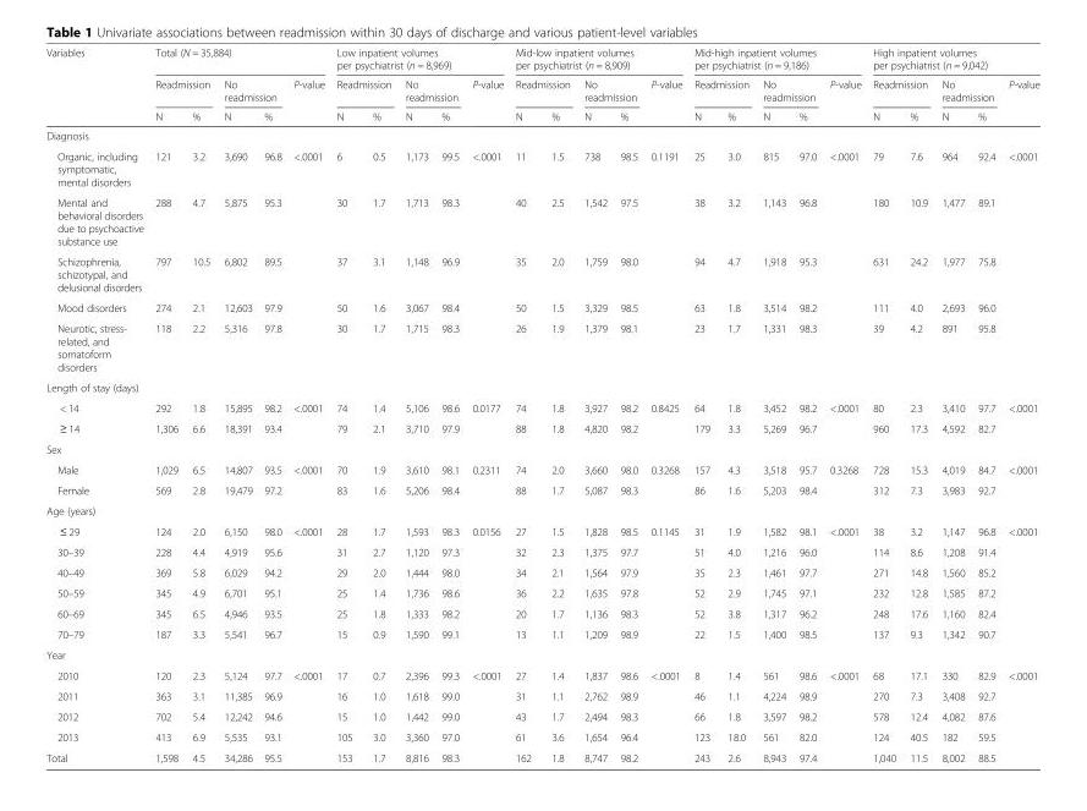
<table><thead><tr><td rowspan="3">Variables</td><td colspan="5">Total (N = 35,884)</td><td colspan="5">Low inpatient volumes per psychiatrist (n = 8,969)</td><td colspan="5">Mid-low inpatient volumes per psychiatrist (n = 8,909)</td><td colspan="5">Mid-high inpatient volumes per psychiatrist (n = 9,186)</td><td colspan="5">High inpatient volumes per psychiatrist (n = 9,042)</td></tr><tr><td colspan="2">Readmission</td><td colspan="2">No readmission</td><td rowspan="2">P-value</td><td colspan="2">Readmission</td><td colspan="2">No readmission</td><td rowspan="2">P-value</td><td colspan="2">Readmission</td><td colspan="2">No readmission</td><td rowspan="2">P-value</td><td colspan="2">Readmission</td><td colspan="2">No readmission</td><td rowspan="2">P-value</td><td colspan="2">Readmission</td><td colspan="2">No readmission</td><td rowspan="2">P-value</td></tr><tr><td>N</td><td>%</td><td>N</td><td>%</td><td>N</td><td>%</td><td>N</td><td>%</td><td>N</td><td>%</td><td>N</td><td>%</td><td>N</td><td>%</td><td>N</td><td>%</td><td>N</td><td>%</td><td>N</td><td>%</td></tr></thead><tbody><tr><td colspan="26">Diagnosis</td></tr><tr><td>Organic, including symptomatic, mental disorders</td><td>121</td><td>3.2</td><td>3,690</td><td>96.8</td><td>&lt;.0001</td><td>6</td><td>0.5</td><td>1,173</td><td>99.5</td><td>&lt;.0001</td><td>11</td><td>1.5</td><td>738</td><td>98.5</td><td>0.1191</td><td>25</td><td>3.0</td><td>815</td><td>97.0</td><td>&lt;.0001</td><td>79</td><td>7.6</td><td>964</td><td>92.4</td><td>&lt;.0001</td></tr><tr><td>Mental and behavioral disorders due to psychoactive substance use</td><td>288</td><td>4.7</td><td>5,875</td><td>95.3</td><td></td><td>30</td><td>1.7</td><td>1,713</td><td>98.3</td><td></td><td>40</td><td>2.5</td><td>1,542</td><td>97.5</td><td></td><td>38</td><td>3.2</td><td>1,143</td><td>96.8</td><td></td><td>180</td><td>10.9</td><td>1,477</td><td>89.1</td><td></td></tr><tr><td>Schizophrenia, schizotypal, and delusional disorders</td><td>797</td><td>10.5</td><td>6,802</td><td>89.5</td><td></td><td>37</td><td>3.1</td><td>1,148</td><td>96.9</td><td></td><td>35</td><td>2.0</td><td>1,759</td><td>98.0</td><td></td><td>94</td><td>4.7</td><td>1,918</td><td>95.3</td><td></td><td>631</td><td>24.2</td><td>1,977</td><td>75.8</td><td></td></tr><tr><td>Mood disorders</td><td>274</td><td>2.1</td><td>12,603</td><td>97.9</td><td></td><td>50</td><td>1.6</td><td>3,067</td><td>98.4</td><td></td><td>50</td><td>1.5</td><td>3,329</td><td>98.5</td><td></td><td>63</td><td>1.8</td><td>3,514</td><td>98.2</td><td></td><td>111</td><td>4.0</td><td>2,693</td><td>96.0</td><td></td></tr><tr><td>Neurotic, stress- related, and somatoform disorders</td><td>118</td><td>2.2</td><td>5,316</td><td>97.8</td><td></td><td>30</td><td>1.7</td><td>1,715</td><td>98.3</td><td></td><td>26</td><td>1.9</td><td>1,379</td><td>98.1</td><td></td><td>23</td><td>1.7</td><td>1,331</td><td>98.3</td><td></td><td>39</td><td>4.2</td><td>891</td><td>95.8</td><td></td></tr><tr><td colspan="26">Length of stay (days)</td></tr><tr><td>&lt; 14</td><td>292</td><td>1.8</td><td>15,895</td><td>98.2</td><td>&lt;.0001</td><td>74</td><td>1.4</td><td>5,106</td><td>98.6</td><td>0.0177</td><td>74</td><td>1.8</td><td>3,927</td><td>98.2</td><td>0.8425</td><td>64</td><td>1.8</td><td>3,452</td><td>98.2</td><td>&lt;.0001</td><td>80</td><td>2.3</td><td>3,410</td><td>97.7</td><td>&lt;.0001</td></tr><tr><td>≥ 14</td><td>1,306</td><td>6.6</td><td>18,391</td><td>93.4</td><td></td><td>79</td><td>2.1</td><td>3,710</td><td>97.9</td><td></td><td>88</td><td>1.8</td><td>4,820</td><td>98.2</td><td></td><td>179</td><td>3.3</td><td>5,269</td><td>96.7</td><td></td><td>960</td><td>17.3</td><td>4,592</td><td>82.7</td><td></td></tr><tr><td colspan="26">Sex</td></tr><tr><td>Male</td><td>1,029</td><td>6.5</td><td>14,807</td><td>93.5</td><td>&lt;.0001</td><td>70</td><td>1.9</td><td>3,610</td><td>98.1</td><td>0.2311</td><td>74</td><td>2.0</td><td>3,660</td><td>98.0</td><td>0.3268</td><td>157</td><td>4.3</td><td>3,518</td><td>95.7</td><td>0.3268</td><td>728</td><td>15.3</td><td>4,019</td><td>84.7</td><td>&lt;.0001</td></tr><tr><td>Female</td><td>569</td><td>2.8</td><td>19,479</td><td>97.2</td><td></td><td>83</td><td>1.6</td><td>5,206</td><td>98.4</td><td></td><td>88</td><td>1.7</td><td>5,087</td><td>98.3</td><td></td><td>86</td><td>1.6</td><td>5,203</td><td>98.4</td><td></td><td>312</td><td>7.3</td><td>3,983</td><td>92.7</td><td></td></tr><tr><td colspan="26">Age (years)</td></tr><tr><td>≤ 29</td><td>124</td><td>2.0</td><td>6,150</td><td>98.0</td><td>&lt;.0001</td><td>28</td><td>1.7</td><td>1,593</td><td>98.3</td><td>0.0156</td><td>27</td><td>1.5</td><td>1,828</td><td>98.5</td><td>0.1145</td><td>31</td><td>1.9</td><td>1,582</td><td>98.1</td><td>&lt;.0001</td><td>38</td><td>3.2</td><td>1,147</td><td>96.8</td><td>&lt;.0001</td></tr><tr><td>30–39</td><td>228</td><td>4.4</td><td>4,919</td><td>95.6</td><td></td><td>31</td><td>2.7</td><td>1,120</td><td>97.3</td><td></td><td>32</td><td>2.3</td><td>1,375</td><td>97.7</td><td></td><td>51</td><td>4.0</td><td>1,216</td><td>96.0</td><td></td><td>114</td><td>8.6</td><td>1,208</td><td>91.4</td><td></td></tr><tr><td>40–49</td><td>369</td><td>5.8</td><td>6,029</td><td>94.2</td><td></td><td>29</td><td>2.0</td><td>1,444</td><td>98.0</td><td></td><td>34</td><td>2.1</td><td>1,564</td><td>97.9</td><td></td><td>35</td><td>2.3</td><td>1,461</td><td>97.7</td><td></td><td>271</td><td>14.8</td><td>1,560</td><td>85.2</td><td></td></tr><tr><td>50–59</td><td>345</td><td>4.9</td><td>6,701</td><td>95.1</td><td></td><td>25</td><td>1.4</td><td>1,736</td><td>98.6</td><td></td><td>36</td><td>2.2</td><td>1,635</td><td>97.8</td><td></td><td>52</td><td>2.9</td><td>1,745</td><td>97.1</td><td></td><td>232</td><td>12.8</td><td>1,585</td><td>87.2</td><td></td></tr><tr><td>60–69</td><td>345</td><td>6.5</td><td>4,946</td><td>93.5</td><td></td><td>25</td><td>1.8</td><td>1,333</td><td>98.2</td><td></td><td>20</td><td>1.7</td><td>1,136</td><td>98.3</td><td></td><td>52</td><td>3.8</td><td>1,317</td><td>96.2</td><td></td><td>248</td><td>17.6</td><td>1,160</td><td>82.4</td><td></td></tr><tr><td>70–79</td><td>187</td><td>3.3</td><td>5,541</td><td>96.7</td><td></td><td>15</td><td>0.9</td><td>1,590</td><td>99.1</td><td></td><td>13</td><td>1.1</td><td>1,209</td><td>98.9</td><td></td><td>22</td><td>1.5</td><td>1,400</td><td>98.5</td><td></td><td>137</td><td>9.3</td><td>1,342</td><td>90.7</td><td></td></tr><tr><td colspan="26">Year</td></tr><tr><td>2010</td><td>120</td><td>2.3</td><td>5,124</td><td>97.7</td><td>&lt;.0001</td><td>17</td><td>0.7</td><td>2,396</td><td>99.3</td><td>&lt;.0001</td><td>27</td><td>1.4</td><td>1,837</td><td>98.6</td><td>&lt;.0001</td><td>8</td><td>1.4</td><td>561</td><td>98.6</td><td>&lt;.0001</td><td>68</td><td>17.1</td><td>330</td><td>82.9</td><td>&lt;.0001</td></tr><tr><td>2011</td><td>363</td><td>3.1</td><td>11,385</td><td>96.9</td><td></td><td>16</td><td>1.0</td><td>1,618</td><td>99.0</td><td></td><td>31</td><td>1.1</td><td>2,762</td><td>98.9</td><td></td><td>46</td><td>1.1</td><td>4,224</td><td>98.9</td><td></td><td>270</td><td>7.3</td><td>3,408</td><td>92.7</td><td></td></tr><tr><td>2012</td><td>702</td><td>5.4</td><td>12,242</td><td>94.6</td><td></td><td>15</td><td>1.0</td><td>1,442</td><td>99.0</td><td></td><td>43</td><td>1.7</td><td>2,494</td><td>98.3</td><td></td><td>66</td><td>1.8</td><td>3,597</td><td>98.2</td><td></td><td>578</td><td>12.4</td><td>4,082</td><td>87.6</td><td></td></tr><tr><td>2013</td><td>413</td><td>6.9</td><td>5,535</td><td>93.1</td><td></td><td>105</td><td>3.0</td><td>3,360</td><td>97.0</td><td></td><td>61</td><td>3.6</td><td>1,654</td><td>96.4</td><td></td><td>123</td><td>18.0</td><td>561</td><td>82.0</td><td></td><td>124</td><td>40.5</td><td>182</td><td>59.5</td><td></td></tr><tr><td>Total</td><td>1,598</td><td>4.5</td><td>34,286</td><td>95.5</td><td></td><td>153</td><td>1.7</td><td>8,816</td><td>98.3</td><td></td><td>162</td><td>1.8</td><td>8,747</td><td>98.2</td><td></td><td>243</td><td>2.6</td><td>8,943</td><td>97.4</td><td></td><td>1,040</td><td>11.5</td><td>8,002</td><td>88.5</td><td></td></tr></tbody></table>